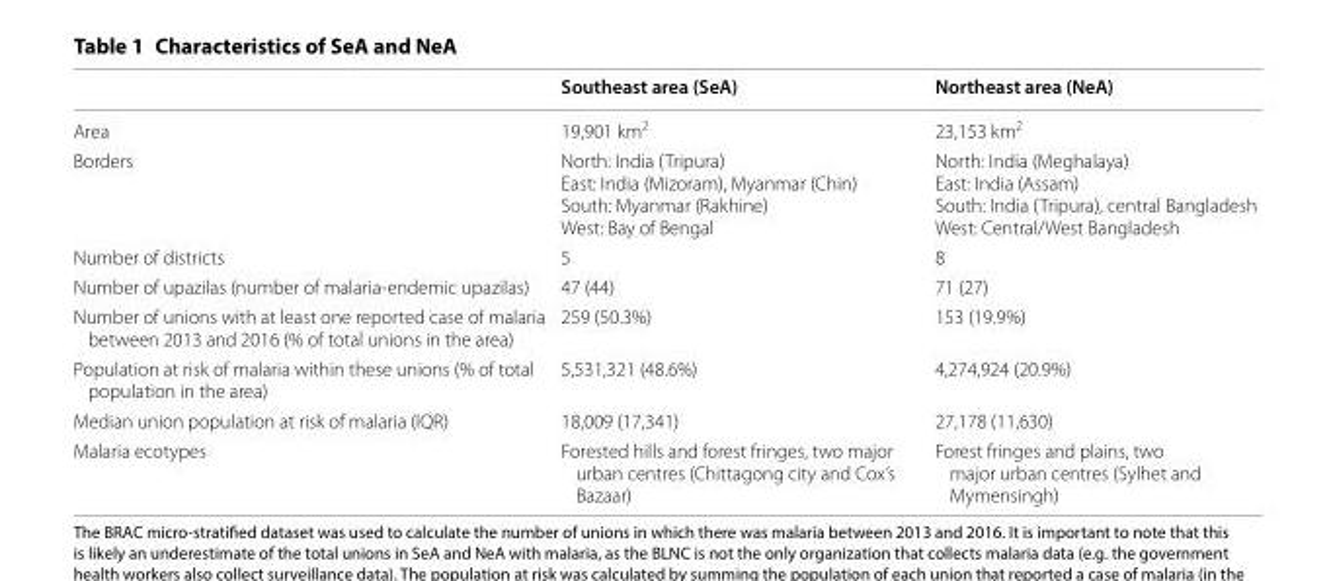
<table><thead><tr><td></td><td>Southeast area (SeA)</td><td>Northeast area (NeA)</td></tr></thead><tbody><tr><td>Area</td><td>19,901 km<sup>2</sup></td><td>23,153 km<sup>2</sup></td></tr><tr><td>Borders</td><td>North: India (Tripura) East: India (Mizoram), Myanmar (Chin) South: Myanmar (Rakhine) West: Bay of Bengal</td><td>North: India (Meghalaya) East: India (Assam) South: India (Tripura), central Bangladesh West: Central/West Bangladesh</td></tr><tr><td>Number of districts</td><td>5</td><td>8</td></tr><tr><td>Number of upazilas (number of malaria-endemic upazilas)</td><td>47 (44)</td><td>71 (27)</td></tr><tr><td>Number of unions with at least one reported case of malaria between 2013 and 2016 (% of total unions in the area)</td><td>259 (50.3%)</td><td>153 (19.9%)</td></tr><tr><td>Population at risk of malaria within these unions (% of total population in the area)</td><td>5,531,321 (48.6%)</td><td>4,274,924 (20.9%)</td></tr><tr><td>Median union population at risk of malaria (IQR)</td><td>18,009 (17,341)</td><td>27,178 (11,630)</td></tr><tr><td>Malaria ecotypes</td><td>Forested hills and forest fringes, two major urban centres (Chittagong city and Cox’s Bazaar)</td><td>Forest fringes and plains, two major urban centres (Sylhet and Mymensingh)</td></tr></tbody></table>